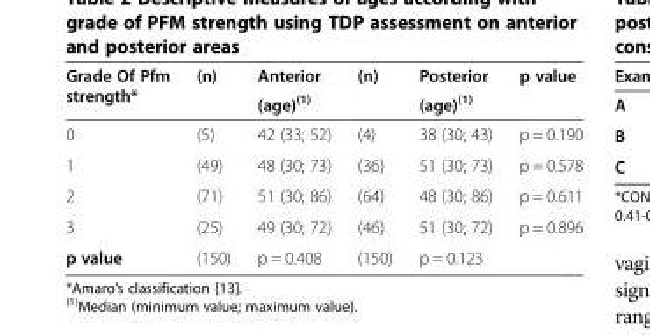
<table><thead><tr><td rowspan="2">Grade Of Pfm strength*</td><td rowspan="2">(n)</td><td rowspan="2">Anterior (age)<sup>(1)</sup></td><td rowspan="2">(n)</td><td rowspan="2">Posterior (age)<sup>(1)</sup></td><td rowspan="2">p value</td></tr><tr></tr></thead><tbody><tr><td>0</td><td>(5)</td><td>42 (33; 52)</td><td>(4)</td><td>38 (30; 43)</td><td>p = 0.190</td></tr><tr><td>1</td><td>(49)</td><td>48 (30; 73)</td><td>(36)</td><td>51 (30; 73)</td><td>p = 0.578</td></tr><tr><td>2</td><td>(71)</td><td>51 (30; 86)</td><td>(64)</td><td>48 (30; 86)</td><td>p = 0.611</td></tr><tr><td>3</td><td>(25)</td><td>49 (30; 72)</td><td>(46)</td><td>51 (30; 72)</td><td>p = 0.896</td></tr><tr><td>p value</td><td>(150)</td><td>p = 0.408</td><td>(150)</td><td>p = 0.123</td><td></td></tr></tbody></table>